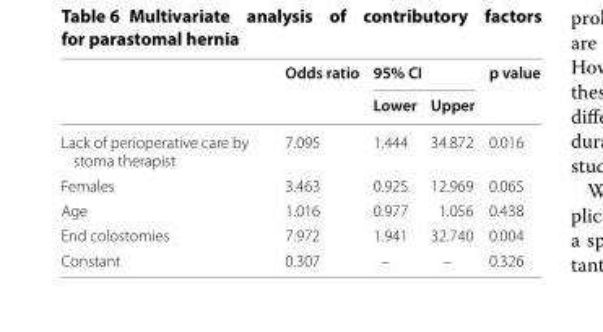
<table><thead><tr><td rowspan="2"></td><td rowspan="2">Odds ratio</td><td colspan="2">95% CI</td><td rowspan="2">p value</td></tr><tr><td>Lower</td><td>Upper</td></tr></thead><tbody><tr><td>Lack of perioperative care by stoma therapist</td><td>7.095</td><td>1.444</td><td>34.872</td><td>0.016</td></tr><tr><td>Females</td><td>3.463</td><td>0.925</td><td>12.969</td><td>0.065</td></tr><tr><td>Age</td><td>1.016</td><td>0.977</td><td>1.056</td><td>0.438</td></tr><tr><td>End colostomies</td><td>7.972</td><td>1.941</td><td>32.740</td><td>0.004</td></tr><tr><td>Constant</td><td>0.307</td><td>–</td><td>–</td><td>0.326</td></tr></tbody></table>